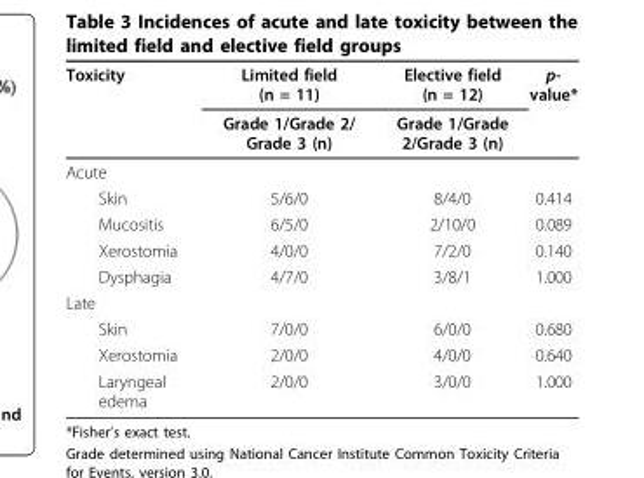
<table><thead><tr><td rowspan="2">Toxicity</td><td rowspan="2">Limited field (n = 11) Grade 1/Grade 2/ Grade 3 (n)</td><td rowspan="2">Elective field (n = 12) Grade 1/Grade 2/Grade 3 (n)</td><td rowspan="2">p- value*</td></tr><tr></tr></thead><tbody><tr><td colspan="4">Acute</td></tr><tr><td>Skin</td><td>5/6/0</td><td>8/4/0</td><td>0.414</td></tr><tr><td>Mucositis</td><td>6/5/0</td><td>2/10/0</td><td>0.089</td></tr><tr><td>Xerostomia</td><td>4/0/0</td><td>7/2/0</td><td>0.140</td></tr><tr><td>Dysphagia</td><td>4/7/0</td><td>3/8/1</td><td>1.000</td></tr><tr><td colspan="4">Late</td></tr><tr><td>Skin</td><td>7/0/0</td><td>6/0/0</td><td>0.680</td></tr><tr><td>Xerostomia</td><td>2/0/0</td><td>4/0/0</td><td>0.640</td></tr><tr><td>Laryngeal edema</td><td>2/0/0</td><td>3/0/0</td><td>1.000</td></tr></tbody></table>